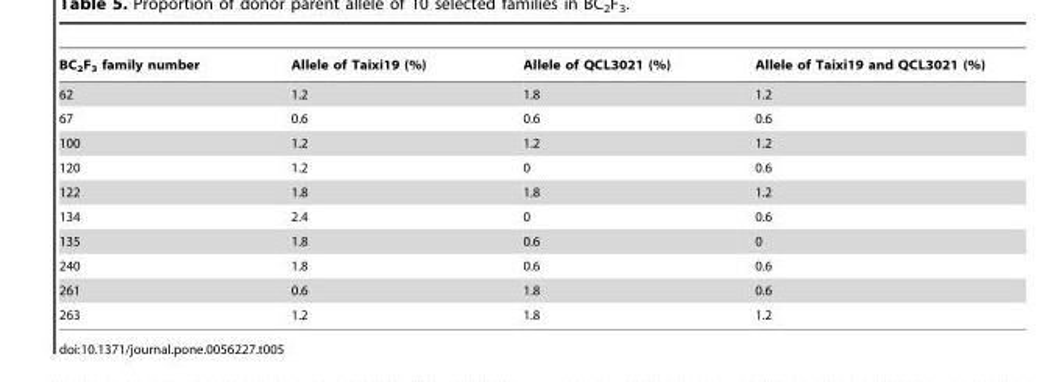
<table><thead><tr><td>BC<sub>2</sub>F<sub>3</sub> family number</td><td>Allele of Taixi19 (%)</td><td>Allele of QCL3021 (%)</td><td>Allele of Taixi19 and QCL3021 (%)</td></tr></thead><tbody><tr><td>62</td><td>1.2</td><td>1.8</td><td>1.2</td></tr><tr><td>67</td><td>0.6</td><td>0.6</td><td>0.6</td></tr><tr><td>100</td><td>1.2</td><td>1.2</td><td>1.2</td></tr><tr><td>120</td><td>1.2</td><td>0</td><td>0.6</td></tr><tr><td>122</td><td>1.8</td><td>1.8</td><td>1.2</td></tr><tr><td>134</td><td>2.4</td><td>0</td><td>0.6</td></tr><tr><td>135</td><td>1.8</td><td>0.6</td><td>0</td></tr><tr><td>240</td><td>1.8</td><td>0.6</td><td>0.6</td></tr><tr><td>261</td><td>0.6</td><td>1.8</td><td>0.6</td></tr><tr><td>263</td><td>1.2</td><td>1.8</td><td>1.2</td></tr></tbody></table>